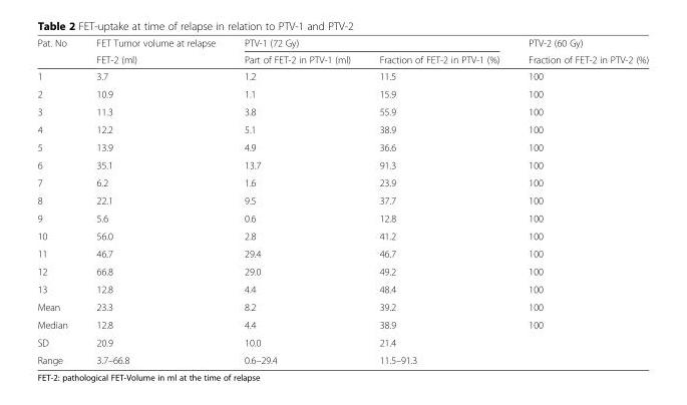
<table><thead><tr><td rowspan="2">Pat. No</td><td rowspan="2">FET Tumor volume at relapse FET-2 (ml)</td><td colspan="2">PTV-1 (72 Gy)</td><td rowspan="2">PTV-2 (60 Gy) Fraction of FET-2 in PTV-2 (%)</td></tr><tr><td>Part of FET-2 in PTV-1 (ml)</td><td>Fraction of FET-2 in PTV-1 (%)</td></tr></thead><tbody><tr><td>1</td><td>3.7</td><td>1.2</td><td>11.5</td><td>100</td></tr><tr><td>2</td><td>10.9</td><td>1.1</td><td>15.9</td><td>100</td></tr><tr><td>3</td><td>11.3</td><td>3.8</td><td>55.9</td><td>100</td></tr><tr><td>4</td><td>12.2</td><td>5.1</td><td>38.9</td><td>100</td></tr><tr><td>5</td><td>13.9</td><td>4.9</td><td>36.6</td><td>100</td></tr><tr><td>6</td><td>35.1</td><td>13.7</td><td>91.3</td><td>100</td></tr><tr><td>7</td><td>6.2</td><td>1.6</td><td>23.9</td><td>100</td></tr><tr><td>8</td><td>22.1</td><td>9.5</td><td>37.7</td><td>100</td></tr><tr><td>9</td><td>5.6</td><td>0.6</td><td>12.8</td><td>100</td></tr><tr><td>10</td><td>56.0</td><td>2.8</td><td>41.2</td><td>100</td></tr><tr><td>11</td><td>46.7</td><td>29.4</td><td>46.7</td><td>100</td></tr><tr><td>12</td><td>66.8</td><td>29.0</td><td>49.2</td><td>100</td></tr><tr><td>13</td><td>12.8</td><td>4.4</td><td>48.4</td><td>100</td></tr><tr><td>Mean</td><td>23.3</td><td>8.2</td><td>39.2</td><td>100</td></tr><tr><td>Median</td><td>12.8</td><td>4.4</td><td>38.9</td><td>100</td></tr><tr><td>SD</td><td>20.9</td><td>10.0</td><td>21.4</td><td></td></tr><tr><td>Range</td><td>3.7–66.8</td><td>0.6–29.4</td><td>11.5–91.3</td><td></td></tr></tbody></table>